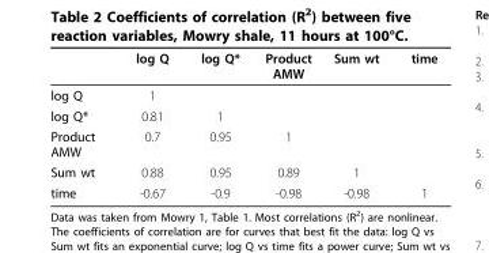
<table><thead><tr><td></td><td>log Q</td><td>log Q*</td><td>Product AMW</td><td>Sum wt</td><td>time</td></tr></thead><tbody><tr><td>log Q</td><td>1</td><td></td><td></td><td></td><td></td></tr><tr><td>log Q*</td><td>0.81</td><td>1</td><td></td><td></td><td></td></tr><tr><td>Product AMW</td><td>0.7</td><td>0.95</td><td>1</td><td></td><td></td></tr><tr><td>Sum wt</td><td>0.88</td><td>0.95</td><td>0.89</td><td>1</td><td></td></tr><tr><td>time</td><td>-0.67</td><td>-0.9</td><td>-0.98</td><td>-0.98</td><td>1</td></tr></tbody></table>